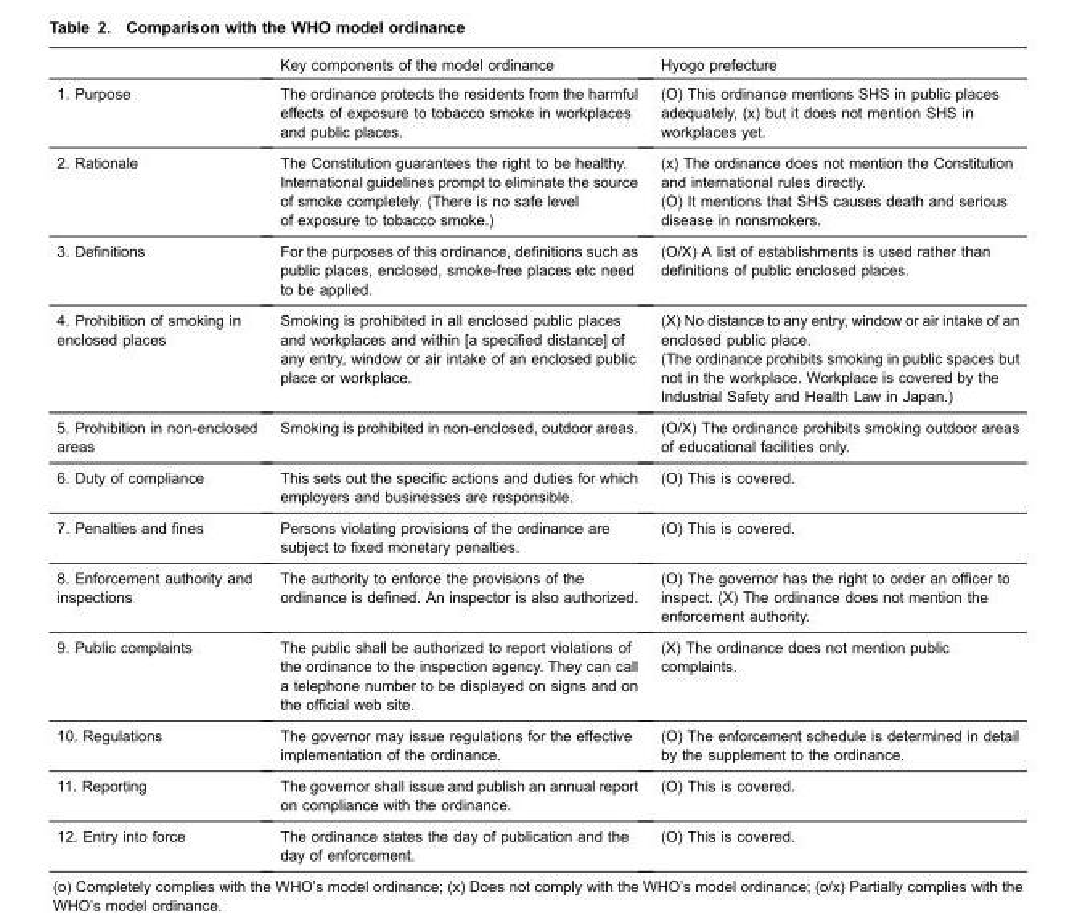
<table><thead><tr><td></td><td>Key components of the model ordinance</td><td>Hyogo prefecture</td></tr></thead><tbody><tr><td>1. Purpose</td><td>The ordinance protects the residents from the harmful effects of exposure to tobacco smoke in workplaces and public places.</td><td>(O) This ordinance mentions SHS in public places adequately, (x) but it does not mention SHS in workplaces yet.</td></tr><tr><td>2. Rationale</td><td>The Constitution guarantees the right to be healthy. International guidelines prompt to eliminate the source of smoke completely. (There is no safe level of exposure to tobacco smoke.)</td><td>(x) The ordinance does not mention the Constitution and international rules directly. (O) It mentions that SHS causes death and serious disease in nonsmokers.</td></tr><tr><td>3. Definitions</td><td>For the purposes of this ordinance, definitions such as public places, enclosed, smoke-free places etc need to be applied.</td><td>(O/X) A list of establishments is used rather than definitions of public enclosed places.</td></tr><tr><td>4. Prohibition of smoking in enclosed places</td><td>Smoking is prohibited in all enclosed public places and workplaces and within [a specified distance] of any entry, window or air intake of an enclosed public place or workplace.</td><td>(X) No distance to any entry, window or air intake of an enclosed public place. (The ordinance prohibits smoking in public spaces but not in the workplace. Workplace is covered by the Industrial Safety and Health Law in Japan.)</td></tr><tr><td>5. Prohibition in non-enclosed areas</td><td>Smoking is prohibited in non-enclosed, outdoor areas.</td><td>(O/X) The ordinance prohibits smoking outdoor areas of educational facilities only.</td></tr><tr><td>6. Duty of compliance</td><td>This sets out the specific actions and duties for which employers and businesses are responsible.</td><td>(O) This is covered.</td></tr><tr><td>7. Penalties and fines</td><td>Persons violating provisions of the ordinance are subject to fixed monetary penalties.</td><td>(O) This is covered.</td></tr><tr><td>8. Enforcement authority and inspections</td><td>The authority to enforce the provisions of the ordinance is defined. An inspector is also authorized.</td><td>(O) The governor has the right to order an officer to inspect. (X) The ordinance does not mention the enforcement authority.</td></tr><tr><td>9. Public complaints</td><td>The public shall be authorized to report violations of the ordinance to the inspection agency. They can call a telephone number to be displayed on signs and on the official web site.</td><td>(X) The ordinance does not mention public complaints.</td></tr><tr><td>10. Regulations</td><td>The governor may issue regulations for the effective implementation of the ordinance.</td><td>(O) The enforcement schedule is determined in detail by the supplement to the ordinance.</td></tr><tr><td>11. Reporting</td><td>The governor shall issue and publish an annual report on compliance with the ordinance.</td><td>(O) This is covered.</td></tr><tr><td>12. Entry into force</td><td>The ordinance states the day of publication and the day of enforcement.</td><td>(O) This is covered.</td></tr></tbody></table>